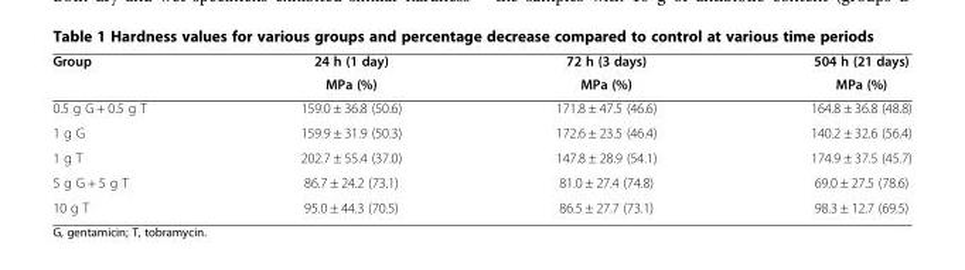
<table><thead><tr><td rowspan="2">Group</td><td rowspan="2">24 h (1 day) MPa (%)</td><td rowspan="2">72 h (3 days) MPa (%)</td><td rowspan="2">504 h (21 days) MPa (%)</td></tr><tr></tr></thead><tbody><tr><td>0.5 g G + 0.5 g T</td><td>159.0 ± 36.8 (50.6)</td><td>171.8 ± 47.5 (46.6)</td><td>164.8 ± 36.8 (48.8)</td></tr><tr><td>1 g G</td><td>159.9 ± 31.9 (50.3)</td><td>172.6 ± 23.5 (46.4)</td><td>140.2 ± 32.6 (56.4)</td></tr><tr><td>1 g T</td><td>202.7 ± 55.4 (37.0)</td><td>147.8 ± 28.9 (54.1)</td><td>174.9 ± 37.5 (45.7)</td></tr><tr><td>5 g G + 5 g T</td><td>86.7 ± 24.2 (73.1)</td><td>81.0 ± 27.4 (74.8)</td><td>69.0 ± 27.5 (78.6)</td></tr><tr><td>10 g T</td><td>95.0 ± 44.3 (70.5)</td><td>86.5 ± 27.7 (73.1)</td><td>98.3 ± 12.7 (69.5)</td></tr></tbody></table>